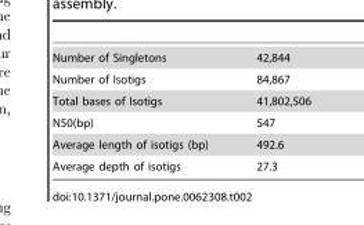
<table><tbody><tr><td>Number of Singletons</td><td>42,844</td></tr><tr><td>Number of Isotigs</td><td>84,867</td></tr><tr><td>Total bases of Isotigs</td><td>41,802,506</td></tr><tr><td>N50(bp)</td><td>547</td></tr><tr><td>Average length of isotigs (bp)</td><td>492.6</td></tr><tr><td>Average depth of isotigs</td><td>27.3</td></tr></tbody></table>